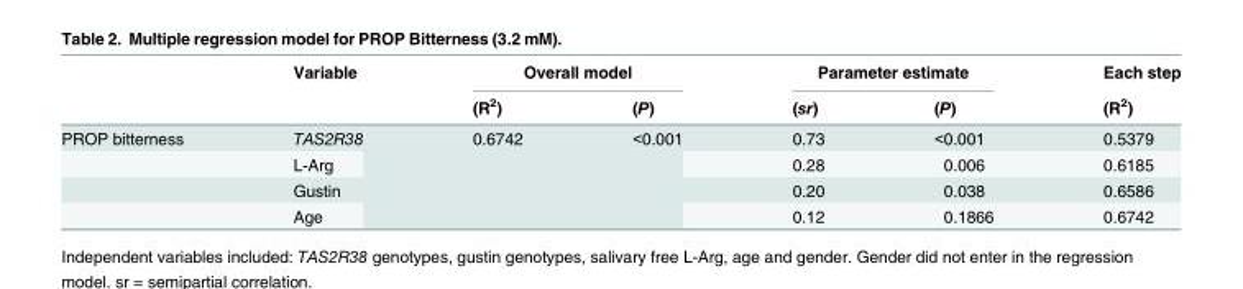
<table><thead><tr><td rowspan="2"></td><td rowspan="2">Variable</td><td colspan="2">Overall model</td><td colspan="2">Parameter estimate</td><td rowspan="2">Each step (R<sup>2</sup>)</td></tr><tr><td>(R<sup>2</sup>)</td><td>(P)</td><td>(sr)</td><td>(P)</td></tr></thead><tbody><tr><td rowspan="4">PROP bitterness</td><td>TAS2R38</td><td rowspan="4">0.6742</td><td rowspan="4">&lt;0.001</td><td>0.73</td><td>&lt;0.001</td><td>0.5379</td></tr><tr><td>L-Arg</td><td>0.28</td><td>0.006</td><td>0.6185</td></tr><tr><td>Gustin</td><td>0.20</td><td>0.038</td><td>0.6586</td></tr><tr><td>Age</td><td>0.12</td><td>0.1866</td><td>0.6742</td></tr></tbody></table>